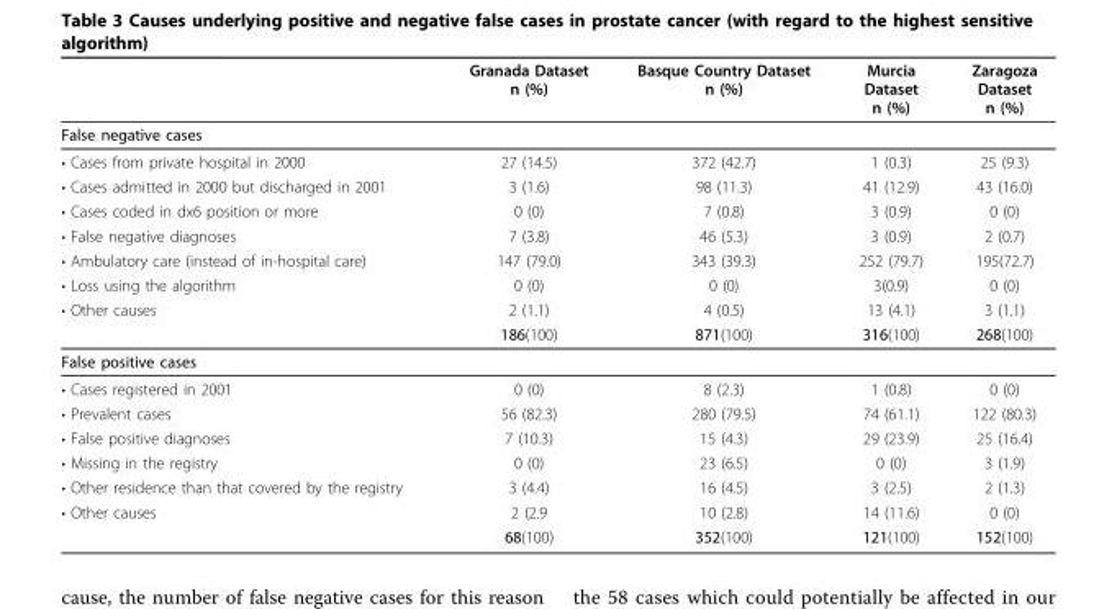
<table><thead><tr><td></td><td>Granada Dataset n (%)</td><td>Basque Country Dataset n (%)</td><td>Murcia Dataset n (%)</td><td>Zaragoza Dataset n (%)</td></tr></thead><tbody><tr><td colspan="5">False negative cases</td></tr><tr><td>• Cases from private hospital in 2000</td><td>27 (14.5)</td><td>372 (42.7)</td><td>1 (0.3)</td><td>25 (9.3)</td></tr><tr><td>• Cases admitted in 2000 but discharged in 2001</td><td>3 (1.6)</td><td>98 (11.3)</td><td>41 (12.9)</td><td>43 (16.0)</td></tr><tr><td>• Cases coded in dx6 position or more</td><td>0 (0)</td><td>7 (0.8)</td><td>3 (0.9)</td><td>0 (0)</td></tr><tr><td>• False negative diagnoses</td><td>7 (3.8)</td><td>46 (5.3)</td><td>3 (0.9)</td><td>2 (0.7)</td></tr><tr><td>• Ambulatory care (instead of in-hospital care)</td><td>147 (79.0)</td><td>343 (39.3)</td><td>252 (79.7)</td><td>195(72.7)</td></tr><tr><td>• Loss using the algorithm</td><td>0 (0)</td><td>0 (0)</td><td>3(0.9)</td><td>0 (0)</td></tr><tr><td rowspan="2">• Other causes</td><td>2 (1.1)</td><td>4 (0.5)</td><td>13 (4.1)</td><td>3 (1.1)</td></tr><tr><td>186(100)</td><td>871(100)</td><td>316(100)</td><td>268(100)</td></tr><tr><td colspan="5">False positive cases</td></tr><tr><td>• Cases registered in 2001</td><td>0 (0)</td><td>8 (2.3)</td><td>1 (0.8)</td><td>0 (0)</td></tr><tr><td>• Prevalent cases</td><td>56 (82.3)</td><td>280 (79.5)</td><td>74 (61.1)</td><td>122 (80.3)</td></tr><tr><td>• False positive diagnoses</td><td>7 (10.3)</td><td>15 (4.3)</td><td>29 (23.9)</td><td>25 (16.4)</td></tr><tr><td>• Missing in the registry</td><td>0 (0)</td><td>23 (6.5)</td><td>0 (0)</td><td>3 (1.9)</td></tr><tr><td>• Other residence than that covered by the registry</td><td>3 (4.4)</td><td>16 (4.5)</td><td>3 (2.5)</td><td>2 (1.3)</td></tr><tr><td rowspan="2">• Other causes</td><td>2 (2.9</td><td>10 (2.8)</td><td>14 (11.6)</td><td>0 (0)</td></tr><tr><td>68(100)</td><td>352(100)</td><td>121(100)</td><td>152(100)</td></tr></tbody></table>